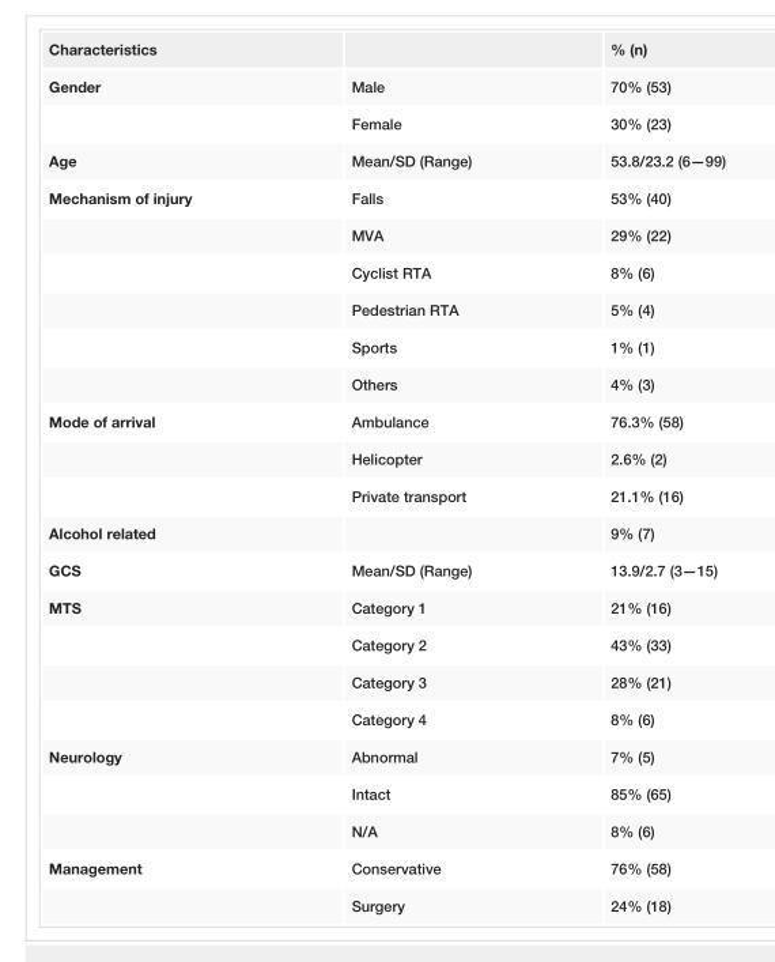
<table><tbody><tr><td>Characteristics</td><td></td><td>% (n)</td></tr><tr><td rowspan="2">Gender</td><td>Male</td><td>70% (53)</td></tr><tr><td>Female</td><td>30% (23)</td></tr><tr><td>Age</td><td>Mean/SD (Range)</td><td>53.8/23.2 (6—99)</td></tr><tr><td rowspan="6">Mechanism of injury</td><td>Falls</td><td>53% (40)</td></tr><tr><td>MVA</td><td>29% (22)</td></tr><tr><td>Cyclist RTA</td><td>8% (6)</td></tr><tr><td>Pedestrian RTA</td><td>5% (4)</td></tr><tr><td>Sports</td><td>1% (1)</td></tr><tr><td>Others</td><td>4% (3)</td></tr><tr><td rowspan="3">Mode of arrival</td><td>Ambulance</td><td>76.3% (58)</td></tr><tr><td>Helicopter</td><td>2.6% (2)</td></tr><tr><td>Private transport</td><td>21.1% (16)</td></tr><tr><td>Alcohol related</td><td></td><td>9% (7)</td></tr><tr><td>GCS</td><td>Mean/SD (Range)</td><td>13.9/2.7 (3—15)</td></tr><tr><td rowspan="4">MTS</td><td>Category 1</td><td>21% (16)</td></tr><tr><td>Category 2</td><td>43% (33)</td></tr><tr><td>Category 3</td><td>28% (21)</td></tr><tr><td>Category 4</td><td>8% (6)</td></tr><tr><td rowspan="3">Neurology</td><td>Abnormal</td><td>7% (5)</td></tr><tr><td>Intact</td><td>85% (65)</td></tr><tr><td>N/A</td><td>8% (6)</td></tr><tr><td rowspan="2">Management</td><td>Conservative</td><td>76% (58)</td></tr><tr><td>Surgery</td><td>24% (18)</td></tr></tbody></table>